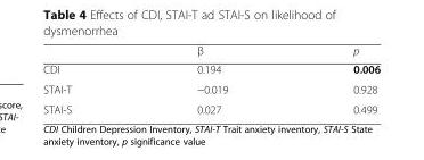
<table><thead><tr><td></td><td>β</td><td>p</td></tr></thead><tbody><tr><td>CDI</td><td>0.194</td><td>0.006</td></tr><tr><td>STAI-T</td><td>−0.019</td><td>0.928</td></tr><tr><td>STAI-S</td><td>0.027</td><td>0.499</td></tr></tbody></table>